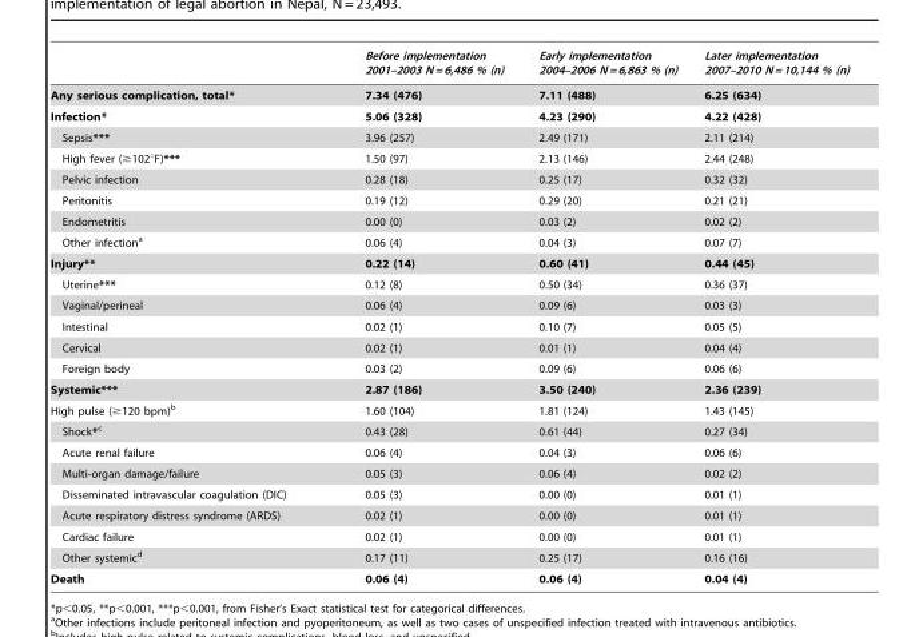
<table><thead><tr><td></td><td>Before implementation 2001–2003 N = 6,486 % (n)</td><td>Early implementation 2004–2006 N = 6,863 % (n)</td><td>Later implementation 2007–2010 N = 10,144 % (n)</td></tr></thead><tbody><tr><td>Any serious complication, total*</td><td>7.34 (476)</td><td>7.11 (488)</td><td>6.25 (634)</td></tr><tr><td>Infection*</td><td>5.06 (328)</td><td>4.23 (290)</td><td>4.22 (428)</td></tr><tr><td>Sepsis***</td><td>3.96 (257)</td><td>2.49 (171)</td><td>2.11 (214)</td></tr><tr><td>High fever (≥102°F)***</td><td>1.50 (97)</td><td>2.13 (146)</td><td>2.44 (248)</td></tr><tr><td>Pelvic infection</td><td>0.28 (18)</td><td>0.25 (17)</td><td>0.32 (32)</td></tr><tr><td>Peritonitis</td><td>0.19 (12)</td><td>0.29 (20)</td><td>0.21 (21)</td></tr><tr><td>Endometritis</td><td>0.00 (0)</td><td>0.03 (2)</td><td>0.02 (2)</td></tr><tr><td>Other infection<sup>a</sup></td><td>0.06 (4)</td><td>0.04 (3)</td><td>0.07 (7)</td></tr><tr><td>Injury**</td><td>0.22 (14)</td><td>0.60 (41)</td><td>0.44 (45)</td></tr><tr><td>Uterine***</td><td>0.12 (8)</td><td>0.50 (34)</td><td>0.36 (37)</td></tr><tr><td>Vaginal/perineal</td><td>0.06 (4)</td><td>0.09 (6)</td><td>0.03 (3)</td></tr><tr><td>Intestinal</td><td>0.02 (1)</td><td>0.10 (7)</td><td>0.05 (5)</td></tr><tr><td>Cervical</td><td>0.02 (1)</td><td>0.01 (1)</td><td>0.04 (4)</td></tr><tr><td>Foreign body</td><td>0.03 (2)</td><td>0.09 (6)</td><td>0.06 (6)</td></tr><tr><td>Systemic***</td><td>2.87 (186)</td><td>3.50 (240)</td><td>2.36 (239)</td></tr><tr><td>High pulse (≥120 bpm)<sup>b</sup></td><td>1.60 (104)</td><td>1.81 (124)</td><td>1.43 (145)</td></tr><tr><td>Shock*c</td><td>0.43 (28)</td><td>0.61 (44)</td><td>0.27 (34)</td></tr><tr><td>Acute renal failure</td><td>0.06 (4)</td><td>0.04 (3)</td><td>0.06 (6)</td></tr><tr><td>Multi-organ damage/failure</td><td>0.05 (3)</td><td>0.06 (4)</td><td>0.02 (2)</td></tr><tr><td>Disseminated intravascular coagulation (DIC)</td><td>0.05 (3)</td><td>0.00 (0)</td><td>0.01 (1)</td></tr><tr><td>Acute respiratory distress syndrome (ARDS)</td><td>0.02 (1)</td><td>0.00 (0)</td><td>0.01 (1)</td></tr><tr><td>Cardiac failure</td><td>0.02 (1)</td><td>0.00 (0)</td><td>0.01 (1)</td></tr><tr><td>Other systemic<sup>d</sup></td><td>0.17 (11)</td><td>0.25 (17)</td><td>0.16 (16)</td></tr><tr><td>Death</td><td>0.06 (4)</td><td>0.06 (4)</td><td>0.04 (4)</td></tr></tbody></table>